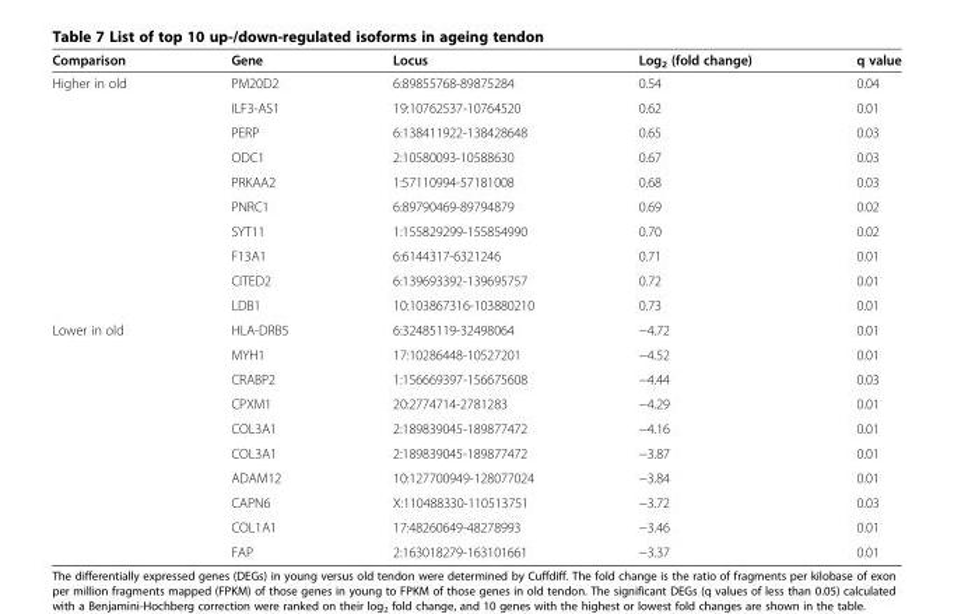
<table><thead><tr><td>Comparison</td><td>Gene</td><td>Locus</td><td>Log<sub>2</sub> (fold change)</td><td>q value</td></tr></thead><tbody><tr><td rowspan="10">Higher in old</td><td>PM20D2</td><td>6:89855768-89875284</td><td>0.54</td><td>0.04</td></tr><tr><td>ILF3-AS1</td><td>19:10762537-10764520</td><td>0.62</td><td>0.01</td></tr><tr><td>PERP</td><td>6:138411922-138428648</td><td>0.65</td><td>0.03</td></tr><tr><td>ODC1</td><td>2:10580093-10588630</td><td>0.67</td><td>0.03</td></tr><tr><td>PRKAA2</td><td>1:57110994-57181008</td><td>0.68</td><td>0.03</td></tr><tr><td>PNRC1</td><td>6:89790469-89794879</td><td>0.69</td><td>0.02</td></tr><tr><td>SYT11</td><td>1:155829299-155854990</td><td>0.70</td><td>0.02</td></tr><tr><td>F13A1</td><td>6:6144317-6321246</td><td>0.71</td><td>0.01</td></tr><tr><td>CITED2</td><td>6:139693392-139695757</td><td>0.72</td><td>0.01</td></tr><tr><td>LDB1</td><td>10:103867316-103880210</td><td>0.73</td><td>0.01</td></tr><tr><td rowspan="10">Lower in old</td><td>HLA-DRB5</td><td>6:32485119-32498064</td><td>−4.72</td><td>0.01</td></tr><tr><td>MYH1</td><td>17:10286448-10527201</td><td>−4.52</td><td>0.01</td></tr><tr><td>CRABP2</td><td>1:156669397-156675608</td><td>−4.44</td><td>0.03</td></tr><tr><td>CPXM1</td><td>20:2774714-2781283</td><td>−4.29</td><td>0.01</td></tr><tr><td>COL3A1</td><td>2:189839045-189877472</td><td>−4.16</td><td>0.01</td></tr><tr><td>COL3A1</td><td>2:189839045-189877472</td><td>−3.87</td><td>0.01</td></tr><tr><td>ADAM12</td><td>10:127700949-128077024</td><td>−3.84</td><td>0.01</td></tr><tr><td>CAPN6</td><td>X:110488330-110513751</td><td>−3.72</td><td>0.03</td></tr><tr><td>COL1A1</td><td>17:48260649-48278993</td><td>−3.46</td><td>0.01</td></tr><tr><td>FAP</td><td>2:163018279-163101661</td><td>−3.37</td><td>0.01</td></tr></tbody></table>